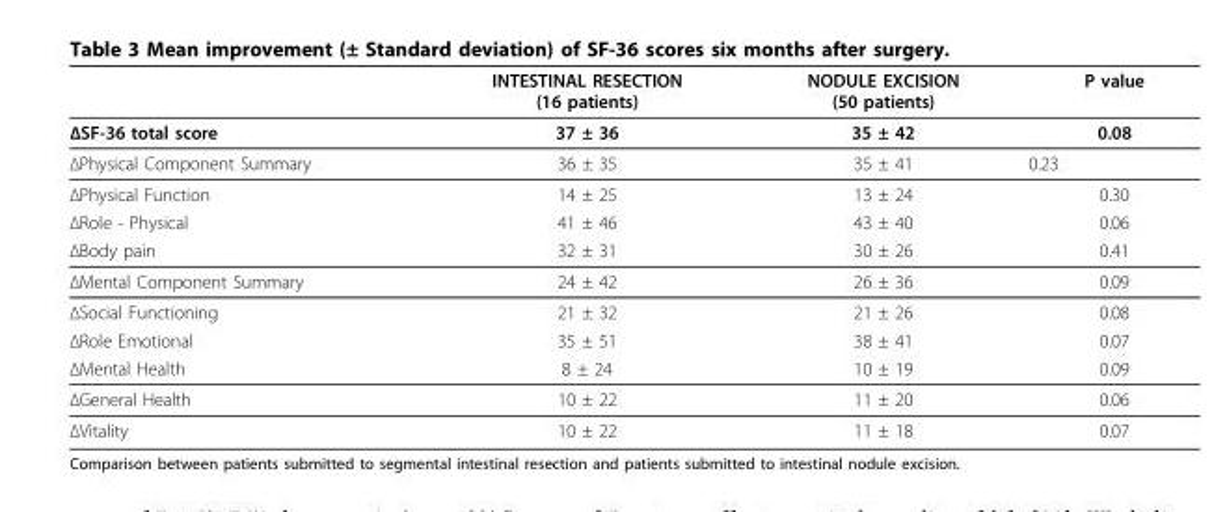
<table><thead><tr><td></td><td>INTESTINAL RESECTION (16 patients)</td><td>NODULE EXCISION (50 patients)</td><td>P value</td></tr></thead><tbody><tr><td>ΔSF-36 total score</td><td>37 ± 36</td><td>35 ± 42</td><td>0.08</td></tr><tr><td>ΔPhysical Component Summary</td><td>36 ± 35</td><td>35 ± 41</td><td>0.23</td></tr><tr><td>ΔPhysical Function</td><td>14 ± 25</td><td>13 ± 24</td><td>0.30</td></tr><tr><td>ΔRole - Physical</td><td>41 ± 46</td><td>43 ± 40</td><td>0.06</td></tr><tr><td>ΔBody pain</td><td>32 ± 31</td><td>30 ± 26</td><td>0.41</td></tr><tr><td>ΔMental Component Summary</td><td>24 ± 42</td><td>26 ± 36</td><td>0.09</td></tr><tr><td>ΔSocial Functioning</td><td>21 ± 32</td><td>21 ± 26</td><td>0.08</td></tr><tr><td>ΔRole Emotional</td><td>35 ± 51</td><td>38 ± 41</td><td>0.07</td></tr><tr><td>ΔMental Health</td><td>8 ± 24</td><td>10 ± 19</td><td>0.09</td></tr><tr><td>ΔGeneral Health</td><td>10 ± 22</td><td>11 ± 20</td><td>0.06</td></tr><tr><td>ΔVitality</td><td>10 ± 22</td><td>11 ± 18</td><td>0.07</td></tr></tbody></table>